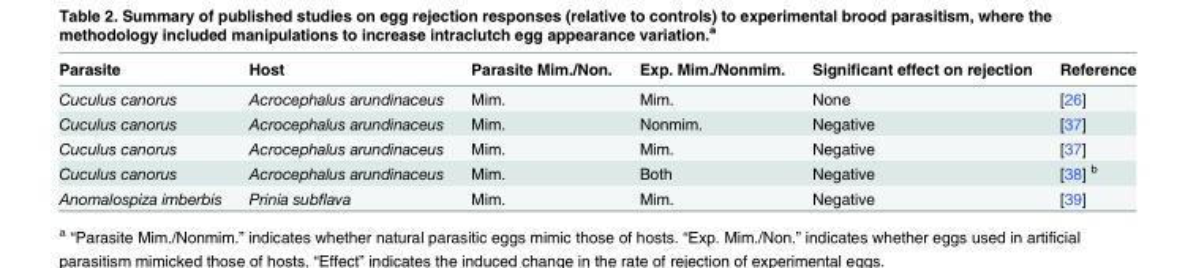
<table><thead><tr><td>Parasite</td><td>Host</td><td>Parasite Mim./Non.</td><td>Exp. Mim./Nonmim.</td><td>Significant effect on rejection</td><td>Reference</td></tr></thead><tbody><tr><td>Cuculus canorus</td><td>Acrocephalus arundinaceus</td><td>Mim.</td><td>Mim.</td><td>None</td><td>[26]</td></tr><tr><td>Cuculus canorus</td><td>Acrocephalus arundinaceus</td><td>Mim.</td><td>Nonmim.</td><td>Negative</td><td>[37]</td></tr><tr><td>Cuculus canorus</td><td>Acrocephalus arundinaceus</td><td>Mim.</td><td>Mim.</td><td>Negative</td><td>[37]</td></tr><tr><td>Cuculus canorus</td><td>Acrocephalus arundinaceus</td><td>Mim.</td><td>Both</td><td>Negative</td><td>[38] <sup>b</sup></td></tr><tr><td>Anomalospiza imberbis</td><td>Prinia subflava</td><td>Mim.</td><td>Mim.</td><td>Negative</td><td>[39]</td></tr></tbody></table>